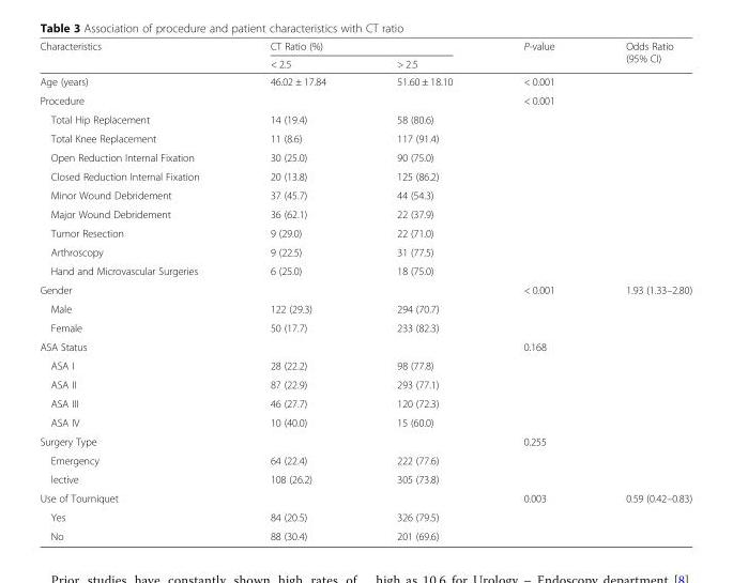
<table><thead><tr><td rowspan="2">Characteristics</td><td colspan="2">CT Ratio (%)</td><td rowspan="2">P-value</td><td rowspan="2">Odds Ratio (95% CI)</td></tr><tr><td>&lt; 2.5</td><td>&gt; 2.5</td></tr></thead><tbody><tr><td>Age (years)</td><td>46.02 ± 17.84</td><td>51.60 ± 18.10</td><td>&lt; 0.001</td><td></td></tr><tr><td>Procedure</td><td></td><td></td><td>&lt; 0.001</td><td></td></tr><tr><td>Total Hip Replacement</td><td>14 (19.4)</td><td>58 (80.6)</td><td></td><td></td></tr><tr><td>Total Knee Replacement</td><td>11 (8.6)</td><td>117 (91.4)</td><td></td><td></td></tr><tr><td>Open Reduction Internal Fixation</td><td>30 (25.0)</td><td>90 (75.0)</td><td></td><td></td></tr><tr><td>Closed Reduction Internal Fixation</td><td>20 (13.8)</td><td>125 (86.2)</td><td></td><td></td></tr><tr><td>Minor Wound Debridement</td><td>37 (45.7)</td><td>44 (54.3)</td><td></td><td></td></tr><tr><td>Major Wound Debridement</td><td>36 (62.1)</td><td>22 (37.9)</td><td></td><td></td></tr><tr><td>Tumor Resection</td><td>9 (29.0)</td><td>22 (71.0)</td><td></td><td></td></tr><tr><td>Arthroscopy</td><td>9 (22.5)</td><td>31 (77.5)</td><td></td><td></td></tr><tr><td>Hand and Microvascular Surgeries</td><td>6 (25.0)</td><td>18 (75.0)</td><td></td><td></td></tr><tr><td>Gender</td><td></td><td></td><td>&lt; 0.001</td><td>1.93 (1.33–2.80)</td></tr><tr><td>Male</td><td>122 (29.3)</td><td>294 (70.7)</td><td></td><td></td></tr><tr><td>Female</td><td>50 (17.7)</td><td>233 (82.3)</td><td></td><td></td></tr><tr><td>ASA Status</td><td></td><td></td><td>0.168</td><td></td></tr><tr><td>ASA I</td><td>28 (22.2)</td><td>98 (77.8)</td><td></td><td></td></tr><tr><td>ASA II</td><td>87 (22.9)</td><td>293 (77.1)</td><td></td><td></td></tr><tr><td>ASA III</td><td>46 (27.7)</td><td>120 (72.3)</td><td></td><td></td></tr><tr><td>ASA IV</td><td>10 (40.0)</td><td>15 (60.0)</td><td></td><td></td></tr><tr><td>Surgery Type</td><td></td><td></td><td>0.255</td><td></td></tr><tr><td>Emergency</td><td>64 (22.4)</td><td>222 (77.6)</td><td></td><td></td></tr><tr><td>lective</td><td>108 (26.2)</td><td>305 (73.8)</td><td></td><td></td></tr><tr><td>Use of Tourniquet</td><td></td><td></td><td>0.003</td><td>0.59 (0.42–0.83)</td></tr><tr><td>Yes</td><td>84 (20.5)</td><td>326 (79.5)</td><td></td><td></td></tr><tr><td>No</td><td>88 (30.4)</td><td>201 (69.6)</td><td></td><td></td></tr></tbody></table>